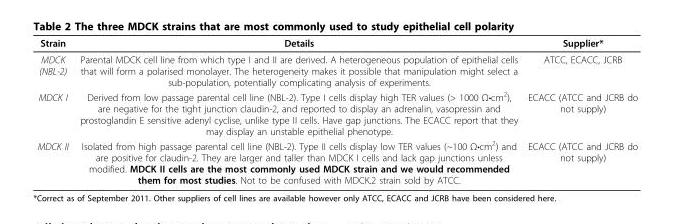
<table><thead><tr><td>Strain</td><td>Details</td><td>Supplier*</td></tr></thead><tbody><tr><td>MDCK (NBL-2)</td><td>Parental MDCK cell line from which type I and II are derived. A heterogeneous population of epithelial cells that will form a polarised monolayer. The heterogeneity makes it possible that manipulation might select a sub-population, potentially complicating analysis of experiments.</td><td>ATCC, ECACC, JCRB</td></tr><tr><td>MDCK I</td><td>Derived from low passage parental cell line (NBL-2). Type I cells display high TER values (&gt; 1000 Ω•cm<sup>2</sup>), are negative for the tight junction claudin-2, and reported to display an adrenalin, vasopressin and prostoglandin E sensitive adenyl cyclise, unlike type II cells. Have gap junctions. The ECACC report that they may display an unstable epithelial phenotype.</td><td>ECACC (ATCC and JCRB do not supply)</td></tr><tr><td>MDCK II</td><td>Isolated from high passage parental cell line (NBL-2). Type II cells display low TER values (~100 Ω•cm<sup>2</sup>) and are positive for claudin-2. They are larger and taller than MDCK I cells and lack gap junctions unless modified. MDCK II cells are the most commonly used MDCK strain and we would recommended them for most studies. Not to be confused with MDCK.2 strain sold by ATCC.</td><td>ECACC (ATCC and JCRB do not supply)</td></tr></tbody></table>